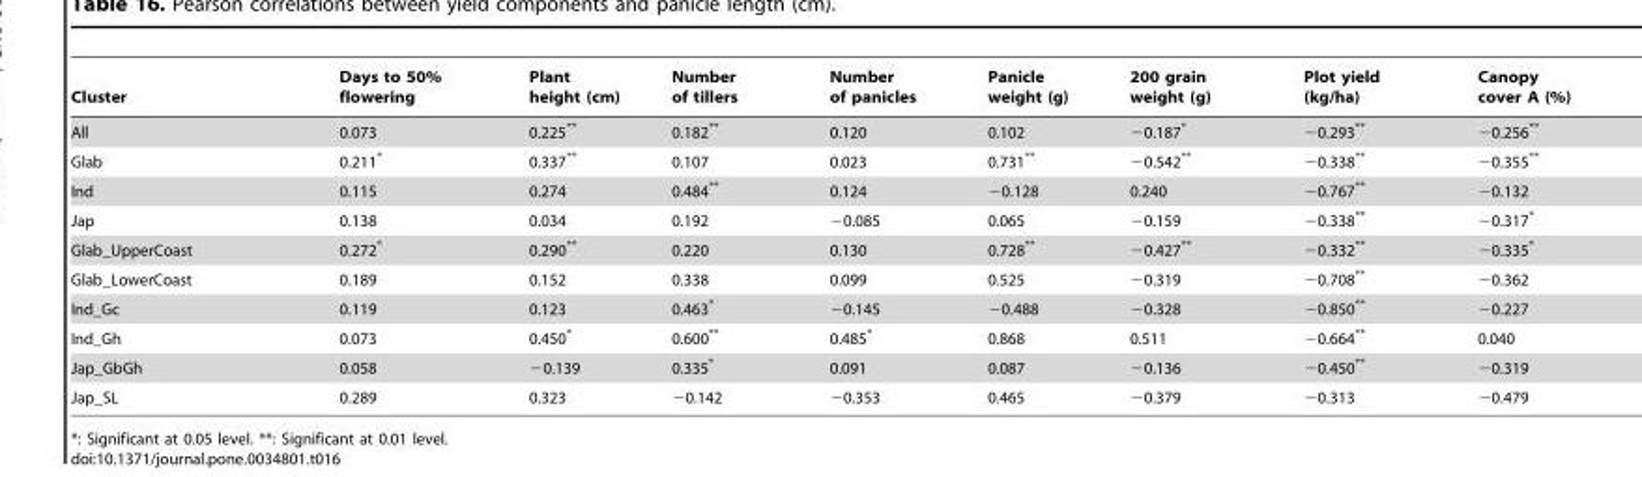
<table><thead><tr><td>Cluster</td><td>Days to 50% flowering</td><td>Plant height (cm)</td><td>Number of tillers</td><td>Number of panicles</td><td>Panicle weight (g)</td><td>200 grain weight (g)</td><td>Plot yield (kg/ha)</td><td>Canopy cover A (%)</td></tr></thead><tbody><tr><td>All</td><td>0.073</td><td>0.225**</td><td>0.182**</td><td>0.120</td><td>0.102</td><td>−0.187*</td><td>−0.293**</td><td>−0.256**</td></tr><tr><td>Glab</td><td>0.211*</td><td>0.337**</td><td>0.107</td><td>0.023</td><td>0.731**</td><td>−0.542**</td><td>−0.338**</td><td>−0.355**</td></tr><tr><td>Ind</td><td>0.115</td><td>0.274</td><td>0.484**</td><td>0.124</td><td>−0.128</td><td>0.240</td><td>−0.767**</td><td>−0.132</td></tr><tr><td>Jap</td><td>0.138</td><td>0.034</td><td>0.192</td><td>−0.085</td><td>0.065</td><td>−0.159</td><td>−0.338**</td><td>−0.317*</td></tr><tr><td>Glab_UpperCoast</td><td>0.272*</td><td>0.290**</td><td>0.220</td><td>0.130</td><td>0.728**</td><td>−0.427**</td><td>−0.332**</td><td>−0.335*</td></tr><tr><td>Glab_LowerCoast</td><td>0.189</td><td>0.152</td><td>0.338</td><td>0.099</td><td>0.525</td><td>−0.319</td><td>−0.708**</td><td>−0.362</td></tr><tr><td>Ind_Gc</td><td>0.119</td><td>0.123</td><td>0.463*</td><td>−0.145</td><td>−0.488</td><td>−0.328</td><td>−0.850**</td><td>−0.227</td></tr><tr><td>Ind_Gh</td><td>0.073</td><td>0.450*</td><td>0.600**</td><td>0.485*</td><td>0.868</td><td>0.511</td><td>−0.664**</td><td>0.040</td></tr><tr><td>Jap_GbGh</td><td>0.058</td><td>−0.139</td><td>0.335*</td><td>0.091</td><td>0.087</td><td>−0.136</td><td>−0.450**</td><td>−0.319</td></tr><tr><td>Jap_SL</td><td>0.289</td><td>0.323</td><td>−0.142</td><td>−0.353</td><td>0.465</td><td>−0.379</td><td>−0.313</td><td>−0.479</td></tr></tbody></table>